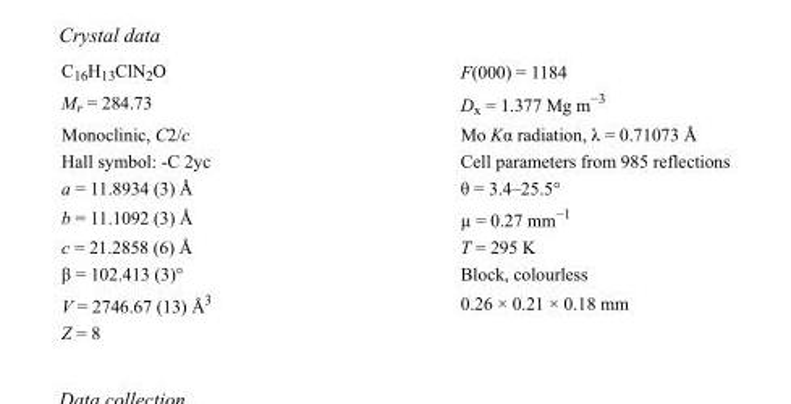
<table><tbody><tr><td>C<sub>16</sub>H<sub>13</sub>ClN<sub>2</sub>O</td><td>F(000) = 1184</td></tr><tr><td>M<sub>r</sub> = 284.73</td><td>D<sub>x</sub> = 1.377 Mg m<sup>−3</sup></td></tr><tr><td>Monoclinic, C2/c</td><td>Mo Kα radiation, λ = 0.71073 Å</td></tr><tr><td>Hall symbol: -C 2yc</td><td>Cell parameters from 985 reflections</td></tr><tr><td>a = 11.8934 (3) Å</td><td>θ = 3.4–25.5°</td></tr><tr><td>b = 11.1092 (3) Å</td><td>µ = 0.27 mm<sup>−1</sup></td></tr><tr><td>c = 21.2858 (6) Å</td><td>T = 295 K</td></tr><tr><td>β = 102.413 (3)°</td><td>Block, colourless</td></tr><tr><td>V = 2746.67 (13) Å<sup>3</sup></td><td>0.26 × 0.21 × 0.18 mm</td></tr><tr><td>Z = 8</td><td></td></tr></tbody></table>